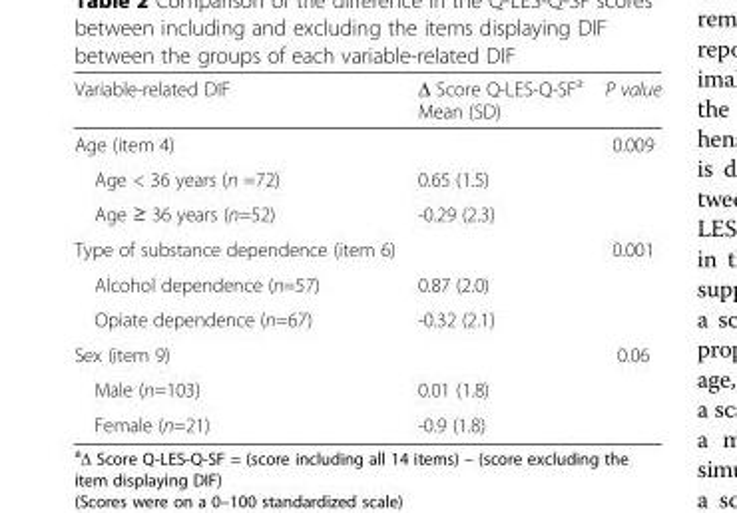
<table><thead><tr><td>Variable-related DIF</td><td>Δ Score Q-LES-Q-SFa Mean (SD)</td><td>P value</td></tr></thead><tbody><tr><td>Age (item 4)</td><td></td><td>0.009</td></tr><tr><td>Age &lt; 36 years (n =72)</td><td>0.65 (1.5)</td><td rowspan="2"></td></tr><tr><td>Age ≥ 36 years (n=52)</td><td>-0.29 (2.3)</td></tr><tr><td>Type of substance dependence (item 6)</td><td></td><td>0.001</td></tr><tr><td>Alcohol dependence (n=57)</td><td>0.87 (2.0)</td><td rowspan="2"></td></tr><tr><td>Opiate dependence (n=67)</td><td>-0.32 (2.1)</td></tr><tr><td>Sex (item 9)</td><td></td><td>0.06</td></tr><tr><td>Male (n=103)</td><td>0.01 (1.8)</td><td rowspan="2"></td></tr><tr><td>Female (n=21)</td><td>-0.9 (1.8)</td></tr></tbody></table>